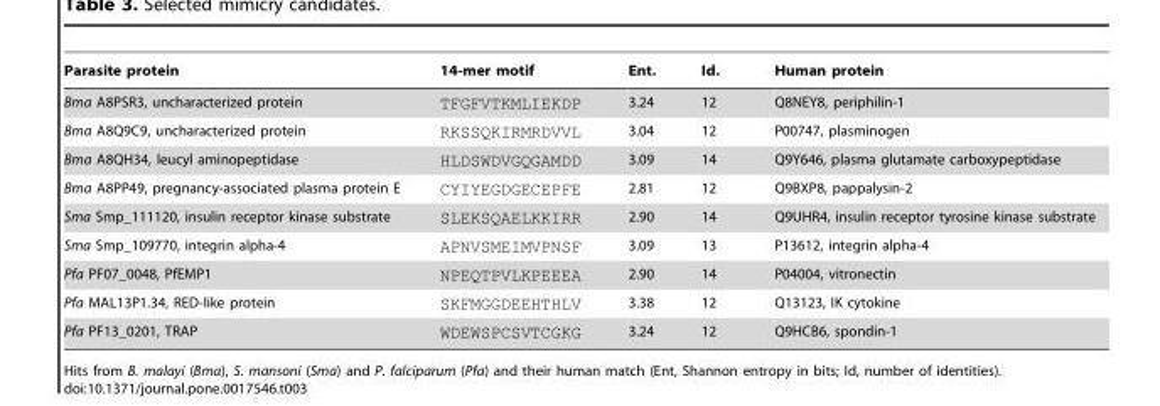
<table><thead><tr><td>Parasite protein</td><td>14-mer motif</td><td>Ent.</td><td>Id.</td><td>Human protein</td></tr></thead><tbody><tr><td>Bma A8PSR3, uncharacterized protein</td><td>TFGFVTKMLIEKDP</td><td>3.24</td><td>12</td><td>Q8NEY8, periphilin-1</td></tr><tr><td>Bma A8Q9C9, uncharacterized protein</td><td>RKSSQKIRMRDVVL</td><td>3.04</td><td>12</td><td>P00747, plasminogen</td></tr><tr><td>Bma A8QH34, leucyl aminopeptidase</td><td>HLDSWDVGQGAMDD</td><td>3.09</td><td>14</td><td>Q9Y646, plasma glutamate carboxypeptidase</td></tr><tr><td>Bma A8PP49, pregnancy-associated plasma protein E</td><td>CYIYEGDGECEPFE</td><td>2.81</td><td>12</td><td>Q9BXP8, pappalysin-2</td></tr><tr><td>Sma Smp_111120, insulin receptor kinase substrate</td><td>SLEKSQAELKKIRR</td><td>2.90</td><td>14</td><td>Q9UHR4, insulin receptor tyrosine kinase substrate</td></tr><tr><td>Sma Smp_109770, integrin alpha-4</td><td>APNVSMEIMVPNSF</td><td>3.09</td><td>13</td><td>P13612, integrin alpha-4</td></tr><tr><td>Pfa PF07_0048, PfEMP1</td><td>NPEQTPVLKPEEEA</td><td>2.90</td><td>14</td><td>P04004, vitronectin</td></tr><tr><td>Pfa MAL13P1.34, RED-like protein</td><td>SKFMGGDEEHTHLV</td><td>3.38</td><td>12</td><td>Q13123, IK cytokine</td></tr><tr><td>Pfa PF13_0201, TRAP</td><td>WDEWSPCSVTCGKG</td><td>3.24</td><td>12</td><td>Q9HCB6, spondin-1</td></tr></tbody></table>